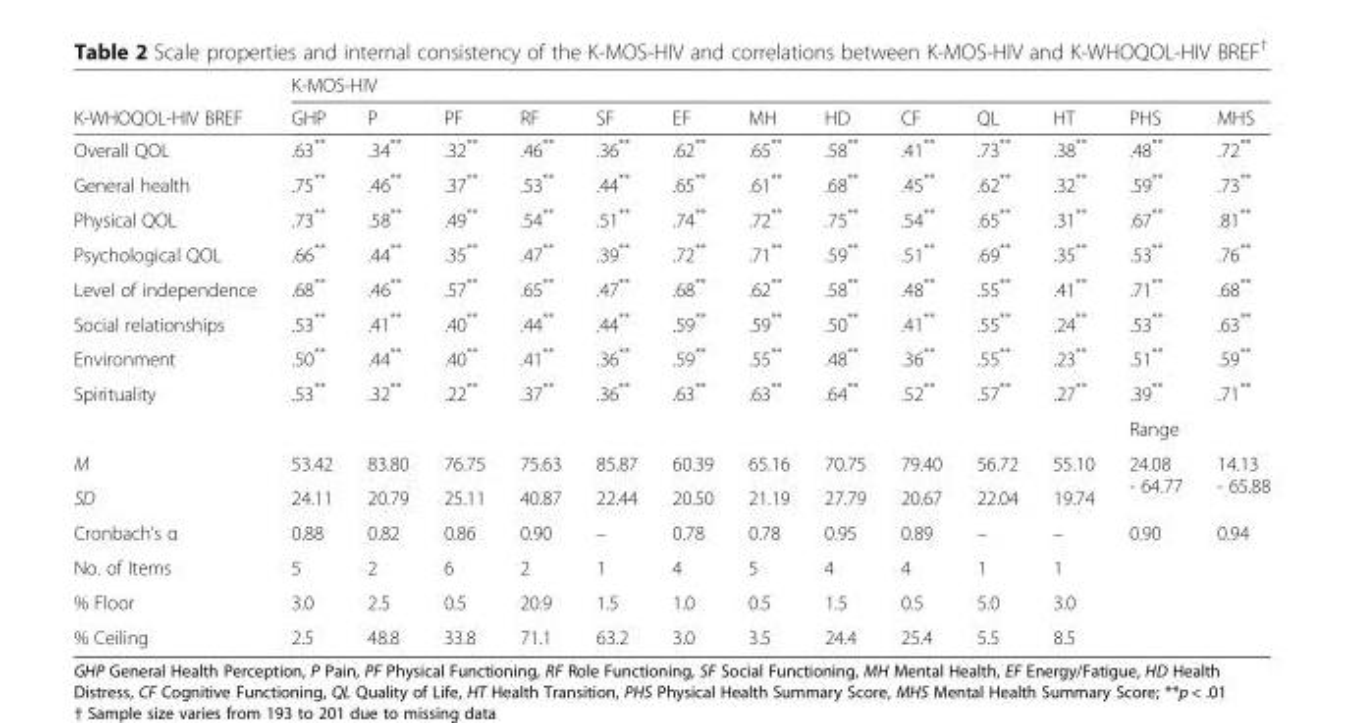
<table><thead><tr><td rowspan="2">K-WHOQOL-HIV BREF</td><td colspan="13">K-MOS-HIV</td></tr><tr><td>GHP</td><td>P</td><td>PF</td><td>RF</td><td>SF</td><td>EF</td><td>MH</td><td>HD</td><td>CF</td><td>QL</td><td>HT</td><td>PHS</td><td>MHS</td></tr></thead><tbody><tr><td>Overall QOL</td><td>.63**</td><td>.34**</td><td>.32**</td><td>.46**</td><td>.36**</td><td>.62**</td><td>.65**</td><td>.58**</td><td>.41**</td><td>.73**</td><td>.38**</td><td>.48**</td><td>.72**</td></tr><tr><td>General health</td><td>.75**</td><td>.46**</td><td>.37**</td><td>.53**</td><td>.44**</td><td>.65**</td><td>.61**</td><td>.68**</td><td>.45**</td><td>.62**</td><td>.32**</td><td>.59**</td><td>.73**</td></tr><tr><td>Physical QOL</td><td>.73**</td><td>.58**</td><td>.49**</td><td>.54**</td><td>.51**</td><td>.74**</td><td>.72**</td><td>.75**</td><td>.54**</td><td>.65**</td><td>.31**</td><td>.67**</td><td>.81**</td></tr><tr><td>Psychological QOL</td><td>.66**</td><td>.44**</td><td>.35**</td><td>.47**</td><td>.39**</td><td>.72**</td><td>.71**</td><td>.59**</td><td>.51**</td><td>.69**</td><td>.35**</td><td>.53**</td><td>.76**</td></tr><tr><td>Level of independence</td><td>.68**</td><td>.46**</td><td>.57**</td><td>.65**</td><td>.47**</td><td>.68**</td><td>.62**</td><td>.58**</td><td>.48**</td><td>.55**</td><td>.41**</td><td>.71**</td><td>.68**</td></tr><tr><td>Social relationships</td><td>.53**</td><td>.41**</td><td>.40**</td><td>.44**</td><td>.44**</td><td>.59**</td><td>.59**</td><td>.50**</td><td>.41**</td><td>.55**</td><td>.24**</td><td>.53**</td><td>.63**</td></tr><tr><td>Environment</td><td>.50**</td><td>.44**</td><td>.40**</td><td>.41**</td><td>.36**</td><td>.59**</td><td>.55**</td><td>.48**</td><td>.36**</td><td>.55**</td><td>.23**</td><td>.51**</td><td>.59**</td></tr><tr><td rowspan="2">Spirituality</td><td>.53**</td><td>.32**</td><td>.22**</td><td>.37**</td><td>.36**</td><td>.63**</td><td>.63**</td><td>.64**</td><td>.52**</td><td>.57**</td><td>.27**</td><td>.39**</td><td>.71**</td></tr><tr><td></td><td></td><td></td><td></td><td></td><td></td><td></td><td></td><td></td><td></td><td></td><td colspan="2">Range</td></tr><tr><td>M</td><td>53.42</td><td>83.80</td><td>76.75</td><td>75.63</td><td>85.87</td><td>60.39</td><td>65.16</td><td>70.75</td><td>79.40</td><td>56.72</td><td>55.10</td><td rowspan="2">24.08 - 64.77</td><td rowspan="2">14.13 - 65.88</td></tr><tr><td>SD</td><td>24.11</td><td>20.79</td><td>25.11</td><td>40.87</td><td>22.44</td><td>20.50</td><td>21.19</td><td>27.79</td><td>20.67</td><td>22.04</td><td>19.74</td></tr><tr><td>Cronbach’s α</td><td>0.88</td><td>0.82</td><td>0.86</td><td>0.90</td><td>–</td><td>0.78</td><td>0.78</td><td>0.95</td><td>0.89</td><td>–</td><td>–</td><td>0.90</td><td>0.94</td></tr><tr><td>No. of Items</td><td>5</td><td>2</td><td>6</td><td>2</td><td>1</td><td>4</td><td>5</td><td>4</td><td>4</td><td>1</td><td>1</td><td></td><td></td></tr><tr><td>% Floor</td><td>3.0</td><td>2.5</td><td>0.5</td><td>20.9</td><td>1.5</td><td>1.0</td><td>0.5</td><td>1.5</td><td>0.5</td><td>5.0</td><td>3.0</td><td></td><td></td></tr><tr><td>% Ceiling</td><td>2.5</td><td>48.8</td><td>33.8</td><td>71.1</td><td>63.2</td><td>3.0</td><td>3.5</td><td>24.4</td><td>25.4</td><td>5.5</td><td>8.5</td><td></td><td></td></tr></tbody></table>